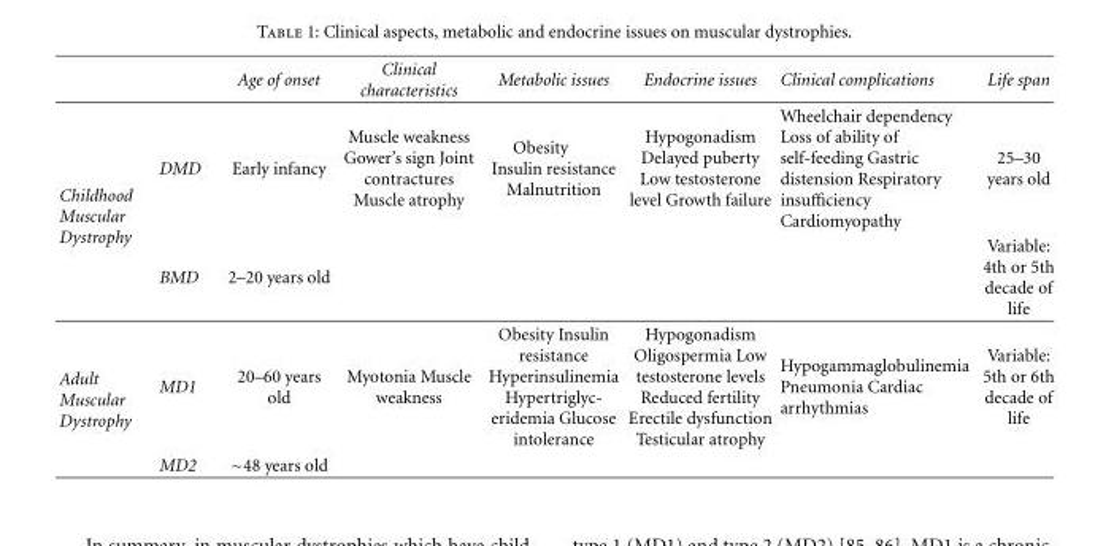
<table><thead><tr><td></td><td></td><td>Age of onset</td><td>Clinical characteristics</td><td>Metabolic issues</td><td>Endocrine issues</td><td>Clinical complications</td><td>Life span</td></tr></thead><tbody><tr><td rowspan="2">Childhood Muscular Dystrophy</td><td>DMD</td><td>Early infancy</td><td>Muscle weakness Gower’s sign Joint contractures Muscle atrophy</td><td>Obesity Insulin resistance Malnutrition</td><td>Hypogonadism Delayed puberty Low testosterone level Growth failure</td><td>Wheelchair dependency Loss of ability of self-feeding Gastric distension Respiratory insufficiency Cardiomyopathy</td><td>25–30 years old</td></tr><tr><td>BMD</td><td>2–20 years old</td><td></td><td></td><td></td><td></td><td>Variable: 4th or 5th decade of life</td></tr><tr><td rowspan="2">Adult Muscular Dystrophy</td><td>MD1</td><td>20–60 years old</td><td>Myotonia Muscle weakness</td><td>Obesity Insulin resistance Hyperinsulinemia Hypertriglyc- eridemia Glucose intolerance</td><td>Hypogonadism Oligospermia Low testosterone levels Reduced fertility Erectile dysfunction Testicular atrophy</td><td>Hypogammaglobulinemia Pneumonia Cardiac arrhythmias</td><td>Variable: 5th or 6th decade of life</td></tr><tr><td>MD2</td><td>∼48 years old</td><td></td><td></td><td></td><td></td><td></td></tr></tbody></table>